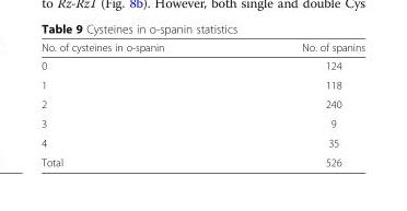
<table><thead><tr><td>No. of cysteines in o-spanin</td><td>No. of spanins</td></tr></thead><tbody><tr><td>0</td><td>124</td></tr><tr><td>1</td><td>118</td></tr><tr><td>2</td><td>240</td></tr><tr><td>3</td><td>9</td></tr><tr><td>4</td><td>35</td></tr><tr><td>Total</td><td>526</td></tr></tbody></table>